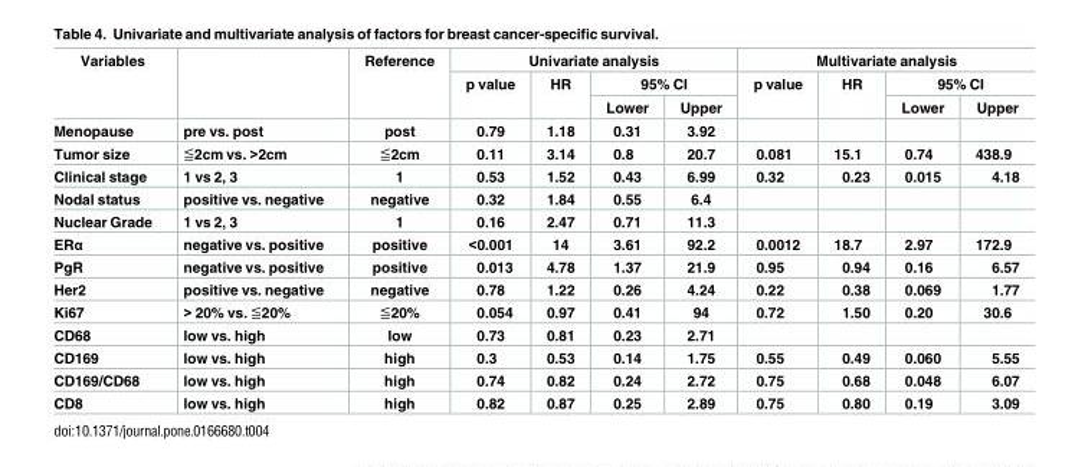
<table><thead><tr><td rowspan="3">Variables</td><td rowspan="3"></td><td rowspan="3">Reference</td><td colspan="4">Univariate analysis</td><td colspan="4">Multivariate analysis</td></tr><tr><td rowspan="2">p value</td><td rowspan="2">HR</td><td colspan="2">95% CI</td><td rowspan="2">p value</td><td rowspan="2">HR</td><td colspan="2">95% CI</td></tr><tr><td>Lower</td><td>Upper</td><td>Lower</td><td>Upper</td></tr></thead><tbody><tr><td>Menopause</td><td>pre vs. post</td><td>post</td><td>0.79</td><td>1.18</td><td>0.31</td><td>3.92</td><td></td><td></td><td></td><td></td></tr><tr><td>Tumor size</td><td>≦2cm vs. &gt;2cm</td><td>≦2cm</td><td>0.11</td><td>3.14</td><td>0.8</td><td>20.7</td><td>0.081</td><td>15.1</td><td>0.74</td><td>438.9</td></tr><tr><td>Clinical stage</td><td>1 vs 2, 3</td><td>1</td><td>0.53</td><td>1.52</td><td>0.43</td><td>6.99</td><td>0.32</td><td>0.23</td><td>0.015</td><td>4.18</td></tr><tr><td>Nodal status</td><td>positive vs. negative</td><td>negative</td><td>0.32</td><td>1.84</td><td>0.55</td><td>6.4</td><td></td><td></td><td></td><td></td></tr><tr><td>Nuclear Grade</td><td>1 vs 2, 3</td><td>1</td><td>0.16</td><td>2.47</td><td>0.71</td><td>11.3</td><td></td><td></td><td></td><td></td></tr><tr><td>ERα</td><td>negative vs. positive</td><td>positive</td><td>&lt;0.001</td><td>14</td><td>3.61</td><td>92.2</td><td>0.0012</td><td>18.7</td><td>2.97</td><td>172.9</td></tr><tr><td>PgR</td><td>negative vs. positive</td><td>positive</td><td>0.013</td><td>4.78</td><td>1.37</td><td>21.9</td><td>0.95</td><td>0.94</td><td>0.16</td><td>6.57</td></tr><tr><td>Her2</td><td>positive vs. negative</td><td>negative</td><td>0.78</td><td>1.22</td><td>0.26</td><td>4.24</td><td>0.22</td><td>0.38</td><td>0.069</td><td>1.77</td></tr><tr><td>Ki67</td><td>&gt; 20% vs. ≦20%</td><td>≦20%</td><td>0.054</td><td>0.97</td><td>0.41</td><td>94</td><td>0.72</td><td>1.50</td><td>0.20</td><td>30.6</td></tr><tr><td>CD68</td><td>low vs. high</td><td>low</td><td>0.73</td><td>0.81</td><td>0.23</td><td>2.71</td><td></td><td></td><td></td><td></td></tr><tr><td>CD169</td><td>low vs. high</td><td>high</td><td>0.3</td><td>0.53</td><td>0.14</td><td>1.75</td><td>0.55</td><td>0.49</td><td>0.060</td><td>5.55</td></tr><tr><td>CD169/CD68</td><td>low vs. high</td><td>high</td><td>0.74</td><td>0.82</td><td>0.24</td><td>2.72</td><td>0.75</td><td>0.68</td><td>0.048</td><td>6.07</td></tr><tr><td>CD8</td><td>low vs. high</td><td>high</td><td>0.82</td><td>0.87</td><td>0.25</td><td>2.89</td><td>0.75</td><td>0.80</td><td>0.19</td><td>3.09</td></tr></tbody></table>